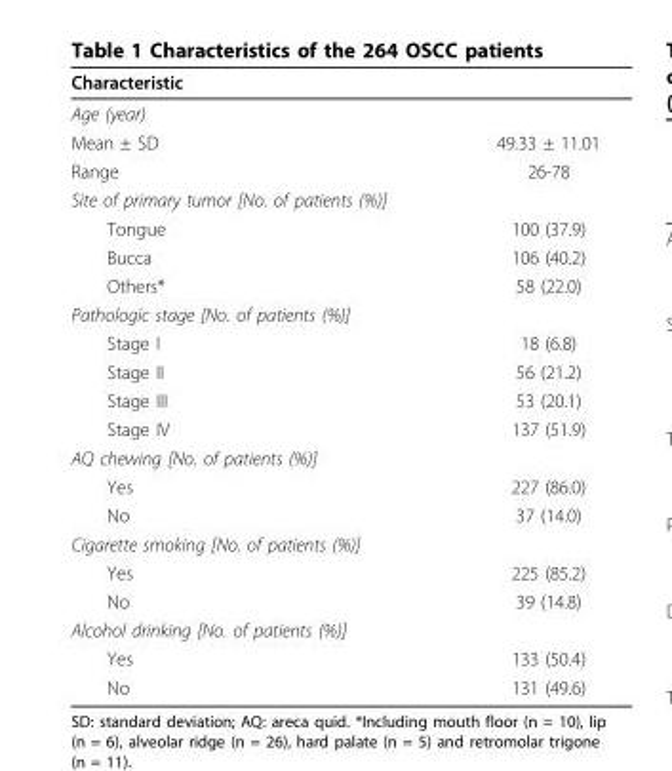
<table><thead><tr><td>Characteristic</td><td></td></tr></thead><tbody><tr><td colspan="2">Age (year)</td></tr><tr><td>Mean ± SD</td><td>49.33 ± 11.01</td></tr><tr><td>Range</td><td>26-78</td></tr><tr><td colspan="2">Site of primary tumor [No. of patients (%)]</td></tr><tr><td>Tongue</td><td>100 (37.9)</td></tr><tr><td>Bucca</td><td>106 (40.2)</td></tr><tr><td>Others*</td><td>58 (22.0)</td></tr><tr><td colspan="2">Pathologic stage [No. of patients (%)]</td></tr><tr><td>Stage I</td><td>18 (6.8)</td></tr><tr><td>Stage II</td><td>56 (21.2)</td></tr><tr><td>Stage III</td><td>53 (20.1)</td></tr><tr><td>Stage IV</td><td>137 (51.9)</td></tr><tr><td colspan="2">AQ chewing [No. of patients (%)]</td></tr><tr><td>Yes</td><td>227 (86.0)</td></tr><tr><td>No</td><td>37 (14.0)</td></tr><tr><td colspan="2">Cigarette smoking [No. of patients (%)]</td></tr><tr><td>Yes</td><td>225 (85.2)</td></tr><tr><td>No</td><td>39 (14.8)</td></tr><tr><td colspan="2">Alcohol drinking [No. of patients (%)]</td></tr><tr><td>Yes</td><td>133 (50.4)</td></tr><tr><td>No</td><td>131 (49.6)</td></tr></tbody></table>